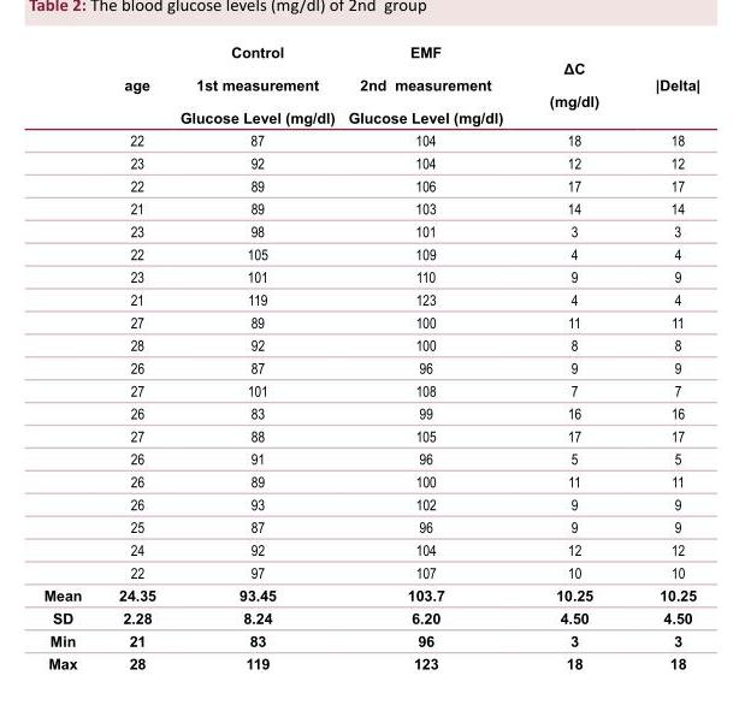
<table><thead><tr><td></td><td>age</td><td>Control 1st measurement Glucose Level (mg/dl)</td><td>EMF 2nd measurement Glucose Level (mg/dl)</td><td>ΔC (mg/dl)</td><td>|Delta|</td></tr></thead><tbody><tr><td></td><td>22</td><td>87</td><td>104</td><td>18</td><td>18</td></tr><tr><td></td><td>23</td><td>92</td><td>104</td><td>12</td><td>12</td></tr><tr><td></td><td>22</td><td>89</td><td>106</td><td>17</td><td>17</td></tr><tr><td></td><td>21</td><td>89</td><td>103</td><td>14</td><td>14</td></tr><tr><td></td><td>23</td><td>98</td><td>101</td><td>3</td><td>3</td></tr><tr><td></td><td>22</td><td>105</td><td>109</td><td>4</td><td>4</td></tr><tr><td></td><td>23</td><td>101</td><td>110</td><td>9</td><td>9</td></tr><tr><td></td><td>21</td><td>119</td><td>123</td><td>4</td><td>4</td></tr><tr><td></td><td>27</td><td>89</td><td>100</td><td>11</td><td>11</td></tr><tr><td></td><td>28</td><td>92</td><td>100</td><td>8</td><td>8</td></tr><tr><td></td><td>26</td><td>87</td><td>96</td><td>9</td><td>9</td></tr><tr><td></td><td>27</td><td>101</td><td>108</td><td>7</td><td>7</td></tr><tr><td></td><td>26</td><td>83</td><td>99</td><td>16</td><td>16</td></tr><tr><td></td><td>27</td><td>88</td><td>105</td><td>17</td><td>17</td></tr><tr><td></td><td>26</td><td>91</td><td>96</td><td>5</td><td>5</td></tr><tr><td></td><td>26</td><td>89</td><td>100</td><td>11</td><td>11</td></tr><tr><td></td><td>26</td><td>93</td><td>102</td><td>9</td><td>9</td></tr><tr><td></td><td>25</td><td>87</td><td>96</td><td>9</td><td>9</td></tr><tr><td></td><td>24</td><td>92</td><td>104</td><td>12</td><td>12</td></tr><tr><td></td><td>22</td><td>97</td><td>107</td><td>10</td><td>10</td></tr><tr><td>Mean</td><td>24.35</td><td>93.45</td><td>103.7</td><td>10.25</td><td>10.25</td></tr><tr><td>SD</td><td>2.28</td><td>8.24</td><td>6.20</td><td>4.50</td><td>4.50</td></tr><tr><td>Min</td><td>21</td><td>83</td><td>96</td><td>3</td><td>3</td></tr><tr><td>Max</td><td>28</td><td>119</td><td>123</td><td>18</td><td>18</td></tr></tbody></table>